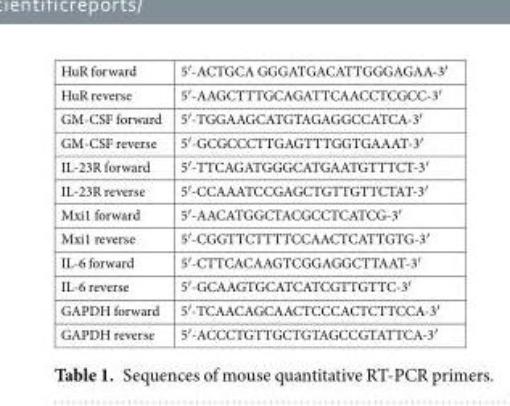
<table><tbody><tr><td>HuR forward</td><td>5′-ACTGCA GGGATGACATTGGGAGAA-3′</td></tr><tr><td>HuR reverse</td><td>5′-AAGCTTTGCAGATTCAACCTCGCC-3′</td></tr><tr><td>GM-CSF forward</td><td>5′-TGGAAGCATGTAGAGGCCATCA-3′</td></tr><tr><td>GM-CSF reverse</td><td>5′-GCGCCCTTGAGTTTGGTGAAAT-3′</td></tr><tr><td>IL-23R forward</td><td>5′-TTCAGATGGGCATGAATGTTTCT-3′</td></tr><tr><td>IL-23R reverse</td><td>5′-CCAAATCCGAGCTGTTGTTCTAT-3′</td></tr><tr><td>Mxi1 forward</td><td>5′-AACATGGCTACGCCTCATCG-3′</td></tr><tr><td>Mxi1 reverse</td><td>5′-CGGTTCTTTTCCAACTCATTGTG-3′</td></tr><tr><td>IL-6 forward</td><td>5′-CTTCACAAGTCGGAGGCTTAAT-3′</td></tr><tr><td>IL-6 reverse</td><td>5′-GCAAGTGCATCATCGTTGTTC-3′</td></tr><tr><td>GAPDH forward</td><td>5′-TCAACAGCAACTCCCACTCTTCCA-3′</td></tr><tr><td>GAPDH reverse</td><td>5′-ACCCTGTTGCTGTAGCCGTATTCA-3′</td></tr></tbody></table>